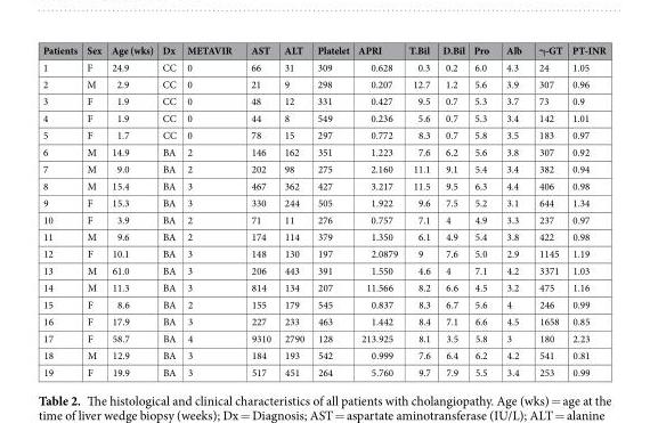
<table><thead><tr><td>Patients</td><td>Sex</td><td>Age (wks)</td><td>Dx</td><td>METAVIR</td><td>AST</td><td>ALT</td><td>Platelet</td><td>APRI</td><td>T.Bil</td><td>D.Bil</td><td>Pro</td><td>Alb</td><td>γ-GT</td><td>PT-INR</td></tr></thead><tbody><tr><td>1</td><td>F</td><td>24.9</td><td>CC</td><td>0</td><td>66</td><td>31</td><td>309</td><td>0.628</td><td>0.3</td><td>0.2</td><td>6.0</td><td>4.3</td><td>24</td><td>1.05</td></tr><tr><td>2</td><td>M</td><td>2.9</td><td>CC</td><td>0</td><td>21</td><td>9</td><td>298</td><td>0.207</td><td>12.7</td><td>1.2</td><td>5.6</td><td>3.9</td><td>307</td><td>0.96</td></tr><tr><td>3</td><td>F</td><td>1.9</td><td>CC</td><td>0</td><td>48</td><td>12</td><td>331</td><td>0.427</td><td>9.5</td><td>0.7</td><td>5.3</td><td>3.7</td><td>73</td><td>0.9</td></tr><tr><td>4</td><td>F</td><td>1.9</td><td>CC</td><td>0</td><td>44</td><td>8</td><td>549</td><td>0.236</td><td>5.6</td><td>0.7</td><td>5.3</td><td>3.4</td><td>142</td><td>1.01</td></tr><tr><td>5</td><td>F</td><td>1.7</td><td>CC</td><td>0</td><td>78</td><td>15</td><td>297</td><td>0.772</td><td>8.3</td><td>0.7</td><td>5.8</td><td>3.5</td><td>183</td><td>0.97</td></tr><tr><td>6</td><td>M</td><td>14.9</td><td>BA</td><td>2</td><td>146</td><td>162</td><td>351</td><td>1.223</td><td>7.6</td><td>6.2</td><td>5.6</td><td>3.8</td><td>307</td><td>0.92</td></tr><tr><td>7</td><td>M</td><td>9.0</td><td>BA</td><td>2</td><td>202</td><td>98</td><td>275</td><td>2.160</td><td>11.1</td><td>9.1</td><td>5.4</td><td>3.4</td><td>382</td><td>0.94</td></tr><tr><td>8</td><td>M</td><td>15.4</td><td>BA</td><td>3</td><td>467</td><td>362</td><td>427</td><td>3.217</td><td>11.5</td><td>9.5</td><td>6.3</td><td>4.4</td><td>406</td><td>0.98</td></tr><tr><td>9</td><td>F</td><td>15.3</td><td>BA</td><td>3</td><td>330</td><td>244</td><td>505</td><td>1.922</td><td>9.6</td><td>7.5</td><td>5.2</td><td>3.1</td><td>644</td><td>1.34</td></tr><tr><td>10</td><td>F</td><td>3.9</td><td>BA</td><td>2</td><td>71</td><td>11</td><td>276</td><td>0.757</td><td>7.1</td><td>4</td><td>4.9</td><td>3.3</td><td>237</td><td>0.97</td></tr><tr><td>11</td><td>M</td><td>9.6</td><td>BA</td><td>2</td><td>174</td><td>114</td><td>379</td><td>1.350</td><td>6.1</td><td>4.9</td><td>5.4</td><td>3.8</td><td>422</td><td>0.98</td></tr><tr><td>12</td><td>F</td><td>10.1</td><td>BA</td><td>3</td><td>148</td><td>130</td><td>197</td><td>2.0879</td><td>9</td><td>7.6</td><td>5.0</td><td>2.9</td><td>1145</td><td>1.19</td></tr><tr><td>13</td><td>M</td><td>61.0</td><td>BA</td><td>3</td><td>206</td><td>443</td><td>391</td><td>1.550</td><td>4.6</td><td>4</td><td>7.1</td><td>4.2</td><td>3371</td><td>1.03</td></tr><tr><td>14</td><td>M</td><td>11.3</td><td>BA</td><td>3</td><td>814</td><td>134</td><td>207</td><td>11.566</td><td>8.2</td><td>6.6</td><td>4.5</td><td>3.2</td><td>475</td><td>1.16</td></tr><tr><td>15</td><td>F</td><td>8.6</td><td>BA</td><td>2</td><td>155</td><td>179</td><td>545</td><td>0.837</td><td>8.3</td><td>6.7</td><td>5.6</td><td>4</td><td>246</td><td>0.99</td></tr><tr><td>16</td><td>F</td><td>17.9</td><td>BA</td><td>3</td><td>227</td><td>233</td><td>463</td><td>1.442</td><td>8.4</td><td>7.1</td><td>6.6</td><td>4.5</td><td>1658</td><td>0.85</td></tr><tr><td>17</td><td>F</td><td>58.7</td><td>BA</td><td>4</td><td>9310</td><td>2790</td><td>128</td><td>213.925</td><td>8.1</td><td>3.5</td><td>5.8</td><td>3</td><td>180</td><td>2.23</td></tr><tr><td>18</td><td>M</td><td>12.9</td><td>BA</td><td>3</td><td>184</td><td>193</td><td>542</td><td>0.999</td><td>7.6</td><td>6.4</td><td>6.2</td><td>4.2</td><td>541</td><td>0.81</td></tr><tr><td>19</td><td>F</td><td>19.9</td><td>BA</td><td>3</td><td>517</td><td>451</td><td>264</td><td>5.760</td><td>9.7</td><td>7.9</td><td>5.5</td><td>3.4</td><td>253</td><td>0.99</td></tr></tbody></table>